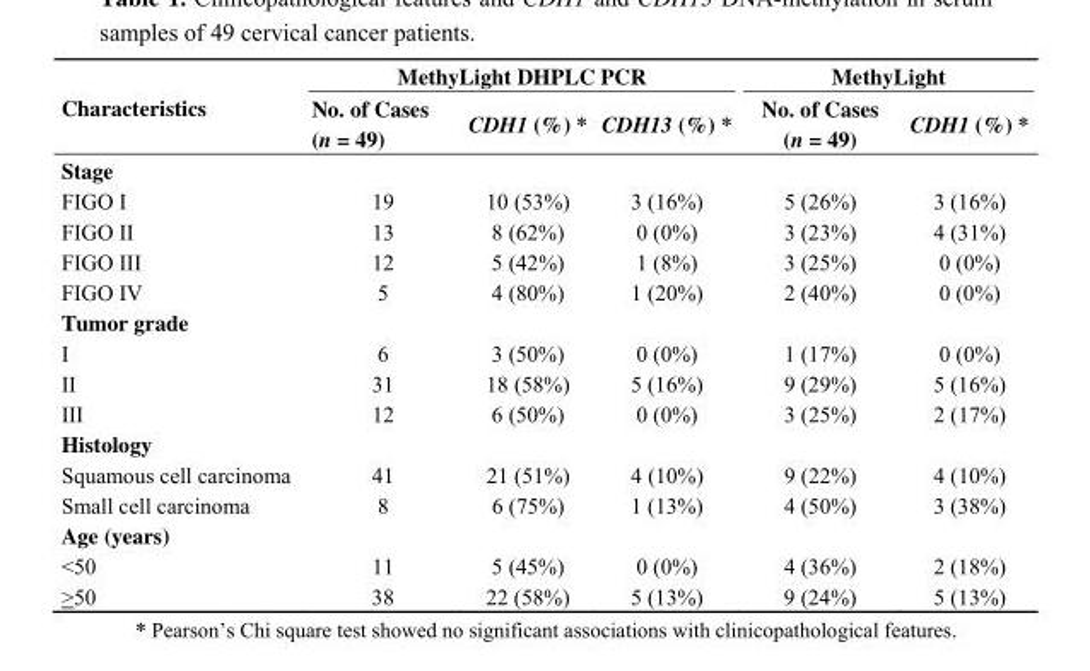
<table><thead><tr><td rowspan="2">Characteristics</td><td colspan="3">MethyLight DHPLC PCR</td><td colspan="2">MethyLight</td></tr><tr><td>No. of Cases (n = 49)</td><td>CDH1 (%) *</td><td>CDH13 (%) *</td><td>No. of Cases (n = 49)</td><td>CDH1 (%) *</td></tr></thead><tbody><tr><td colspan="6">Stage</td></tr><tr><td>FIGO I</td><td>19</td><td>10 (53%)</td><td>3 (16%)</td><td>5 (26%)</td><td>3 (16%)</td></tr><tr><td>FIGO II</td><td>13</td><td>8 (62%)</td><td>0 (0%)</td><td>3 (23%)</td><td>4 (31%)</td></tr><tr><td>FIGO III</td><td>12</td><td>5 (42%)</td><td>1 (8%)</td><td>3 (25%)</td><td>0 (0%)</td></tr><tr><td>FIGO IV</td><td>5</td><td>4 (80%)</td><td>1 (20%)</td><td>2 (40%)</td><td>0 (0%)</td></tr><tr><td colspan="6">Tumor grade</td></tr><tr><td>I</td><td>6</td><td>3 (50%)</td><td>0 (0%)</td><td>1 (17%)</td><td>0 (0%)</td></tr><tr><td>II</td><td>31</td><td>18 (58%)</td><td>5 (16%)</td><td>9 (29%)</td><td>5 (16%)</td></tr><tr><td>III</td><td>12</td><td>6 (50%)</td><td>0 (0%)</td><td>3 (25%)</td><td>2 (17%)</td></tr><tr><td colspan="6">Histology</td></tr><tr><td>Squamous cell carcinoma</td><td>41</td><td>21 (51%)</td><td>4 (10%)</td><td>9 (22%)</td><td>4 (10%)</td></tr><tr><td>Small cell carcinoma</td><td>8</td><td>6 (75%)</td><td>1 (13%)</td><td>4 (50%)</td><td>3 (38%)</td></tr><tr><td colspan="6">Age (years)</td></tr><tr><td>&lt;50</td><td>11</td><td>5 (45%)</td><td>0 (0%)</td><td>4 (36%)</td><td>2 (18%)</td></tr><tr><td>&gt;50</td><td>38</td><td>22 (58%)</td><td>5 (13%)</td><td>9 (24%)</td><td>5 (13%)</td></tr></tbody></table>